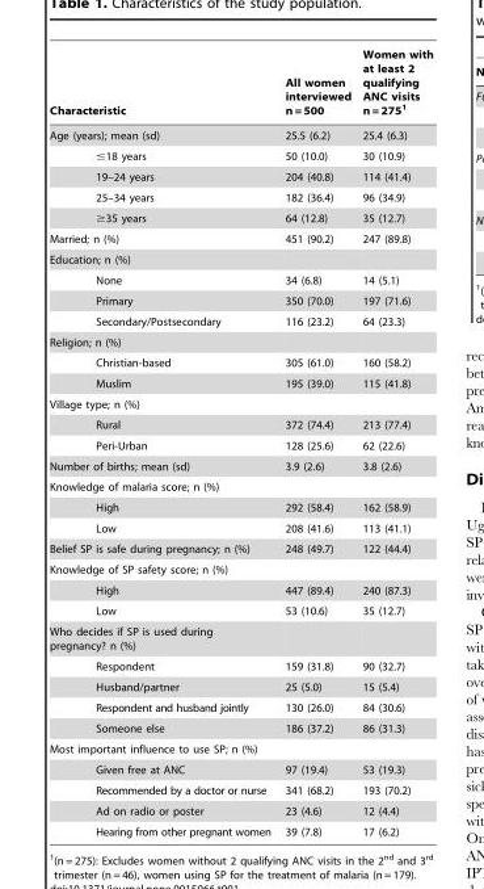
<table><thead><tr><td>Characteristic</td><td>All women interviewed n = 500</td><td>Women with at least 2 qualifying ANC visits n = 275<sup>1</sup></td></tr></thead><tbody><tr><td>Age (years); mean (sd)</td><td>25.5 (6.2)</td><td>25.4 (6.3)</td></tr><tr><td>≤18 years</td><td>50 (10.0)</td><td>30 (10.9)</td></tr><tr><td>19–24 years</td><td>204 (40.8)</td><td>114 (41.4)</td></tr><tr><td>25–34 years</td><td>182 (36.4)</td><td>96 (34.9)</td></tr><tr><td>≥35 years</td><td>64 (12.8)</td><td>35 (12.7)</td></tr><tr><td>Married; n (%)</td><td>451 (90.2)</td><td>247 (89.8)</td></tr><tr><td colspan="3">Education; n (%)</td></tr><tr><td>None</td><td>34 (6.8)</td><td>14 (5.1)</td></tr><tr><td>Primary</td><td>350 (70.0)</td><td>197 (71.6)</td></tr><tr><td>Secondary/Postsecondary</td><td>116 (23.2)</td><td>64 (23.3)</td></tr><tr><td colspan="3">Religion; n (%)</td></tr><tr><td>Christian-based</td><td>305 (61.0)</td><td>160 (58.2)</td></tr><tr><td>Muslim</td><td>195 (39.0)</td><td>115 (41.8)</td></tr><tr><td colspan="3">Village type; n (%)</td></tr><tr><td>Rural</td><td>372 (74.4)</td><td>213 (77.4)</td></tr><tr><td>Peri-Urban</td><td>128 (25.6)</td><td>62 (22.6)</td></tr><tr><td>Number of births; mean (sd)</td><td>3.9 (2.6)</td><td>3.8 (2.6)</td></tr><tr><td colspan="3">Knowledge of malaria score; n (%)</td></tr><tr><td>High</td><td>292 (58.4)</td><td>162 (58.9)</td></tr><tr><td>Low</td><td>208 (41.6)</td><td>113 (41.1)</td></tr><tr><td>Belief SP is safe during pregnancy; n (%)</td><td>248 (49.7)</td><td>122 (44.4)</td></tr><tr><td colspan="3">Knowledge of SP safety score; n (%)</td></tr><tr><td>High</td><td>447 (89.4)</td><td>240 (87.3)</td></tr><tr><td>Low</td><td>53 (10.6)</td><td>35 (12.7)</td></tr><tr><td colspan="3">Who decides if SP is used during pregnancy? n (%)</td></tr><tr><td>Respondent</td><td>159 (31.8)</td><td>90 (32.7)</td></tr><tr><td>Husband/partner</td><td>25 (5.0)</td><td>15 (5.4)</td></tr><tr><td>Respondent and husband jointly</td><td>130 (26.0)</td><td>84 (30.6)</td></tr><tr><td>Someone else</td><td>186 (37.2)</td><td>86 (31.3)</td></tr><tr><td colspan="3">Most important influence to use SP; n (%)</td></tr><tr><td>Given free at ANC</td><td>97 (19.4)</td><td>53 (19.3)</td></tr><tr><td>Recommended by a doctor or nurse</td><td>341 (68.2)</td><td>193 (70.2)</td></tr><tr><td>Ad on radio or poster</td><td>23 (4.6)</td><td>12 (4.4)</td></tr><tr><td>Hearing from other pregnant women</td><td>39 (7.8)</td><td>17 (6.2)</td></tr></tbody></table>